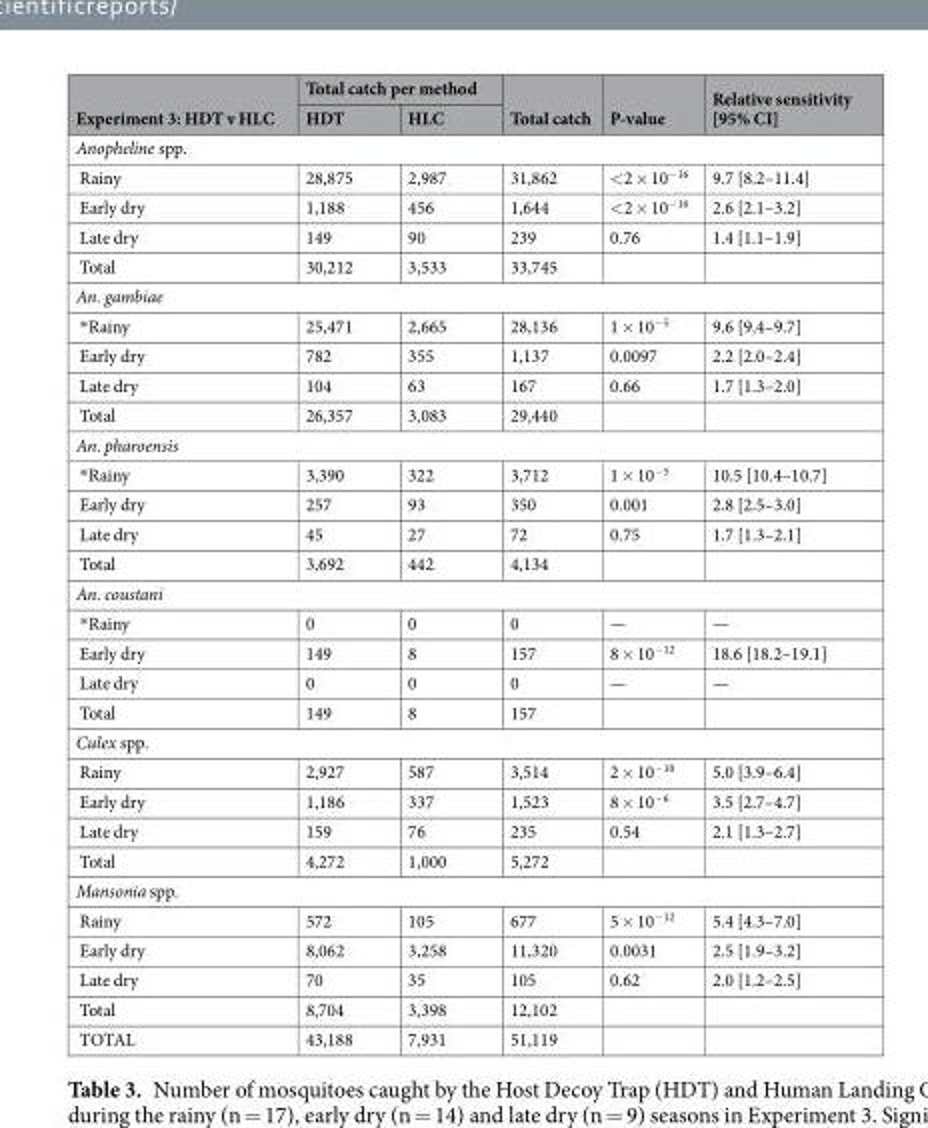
<table><thead><tr><td rowspan="2">Experiment 3: HDT v HLC</td><td colspan="2">Total catch per method</td><td rowspan="2">Total catch</td><td rowspan="2">P-value</td><td rowspan="2">Relative sensitivity [95% CI]</td></tr><tr><td>HDT</td><td>HLC</td></tr></thead><tbody><tr><td colspan="6">Anopheline spp.</td></tr><tr><td>Rainy</td><td>28,875</td><td>2,987</td><td>31,862</td><td>&lt;2 × 10<sup>−16</sup></td><td>9.7 [8.2–11.4]</td></tr><tr><td>Early dry</td><td>1,188</td><td>456</td><td>1,644</td><td>&lt;2 × 10<sup>−16</sup></td><td>2.6 [2.1–3.2]</td></tr><tr><td>Late dry</td><td>149</td><td>90</td><td>239</td><td>0.76</td><td>1.4 [1.1–1.9]</td></tr><tr><td>Total</td><td>30,212</td><td>3,533</td><td>33,745</td><td></td><td></td></tr><tr><td colspan="6">An. gambiae</td></tr><tr><td>*Rainy</td><td>25,471</td><td>2,665</td><td>28,136</td><td>1 × 10<sup>−5</sup></td><td>9.6 [9.4–9.7]</td></tr><tr><td>Early dry</td><td>782</td><td>355</td><td>1,137</td><td>0.0097</td><td>2.2 [2.0–2.4]</td></tr><tr><td>Late dry</td><td>104</td><td>63</td><td>167</td><td>0.66</td><td>1.7 [1.3–2.0]</td></tr><tr><td>Total</td><td>26,357</td><td>3,083</td><td>29,440</td><td></td><td></td></tr><tr><td colspan="6">An. pharoensis</td></tr><tr><td>*Rainy</td><td>3,390</td><td>322</td><td>3,712</td><td>1 × 10<sup>−5</sup></td><td>10.5 [10.4–10.7]</td></tr><tr><td>Early dry</td><td>257</td><td>93</td><td>350</td><td>0.001</td><td>2.8 [2.5–3.0]</td></tr><tr><td>Late dry</td><td>45</td><td>27</td><td>72</td><td>0.75</td><td>1.7 [1.3–2.1]</td></tr><tr><td>Total</td><td>3,692</td><td>442</td><td>4,134</td><td></td><td></td></tr><tr><td colspan="6">An. coustani</td></tr><tr><td>*Rainy</td><td>0</td><td>0</td><td>0</td><td>—</td><td>—</td></tr><tr><td>Early dry</td><td>149</td><td>8</td><td>157</td><td>8 × 10<sup>−12</sup></td><td>18.6 [18.2–19.1]</td></tr><tr><td>Late dry</td><td>0</td><td>0</td><td>0</td><td>—</td><td>—</td></tr><tr><td>Total</td><td>149</td><td>8</td><td>157</td><td></td><td></td></tr><tr><td colspan="6">Culex spp.</td></tr><tr><td>Rainy</td><td>2,927</td><td>587</td><td>3,514</td><td>2 × 10<sup>−10</sup></td><td>5.0 [3.9–6.4]</td></tr><tr><td>Early dry</td><td>1,186</td><td>337</td><td>1,523</td><td>8 × 10<sup>−6</sup></td><td>3.5 [2.7–4.7]</td></tr><tr><td>Late dry</td><td>159</td><td>76</td><td>235</td><td>0.54</td><td>2.1 [1.3–2.7]</td></tr><tr><td>Total</td><td>4,272</td><td>1,000</td><td>5,272</td><td></td><td></td></tr><tr><td colspan="6">Mansonia spp.</td></tr><tr><td>Rainy</td><td>572</td><td>105</td><td>677</td><td>5 × 10<sup>−12</sup></td><td>5.4 [4.3–7.0]</td></tr><tr><td>Early dry</td><td>8,062</td><td>3,258</td><td>11,320</td><td>0.0031</td><td>2.5 [1.9–3.2]</td></tr><tr><td>Late dry</td><td>70</td><td>35</td><td>105</td><td>0.62</td><td>2.0 [1.2–2.5]</td></tr><tr><td>Total</td><td>8,704</td><td>3,398</td><td>12,102</td><td></td><td></td></tr><tr><td>TOTAL</td><td>43,188</td><td>7,931</td><td>51,119</td><td></td><td></td></tr></tbody></table>